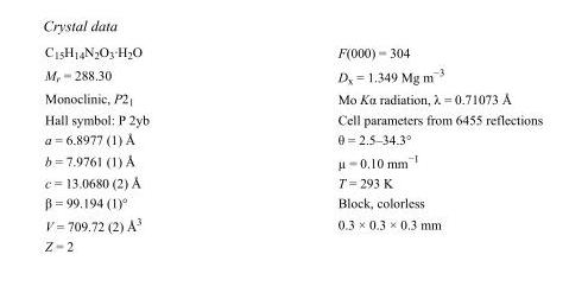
<table><tbody><tr><td>C<sub>15</sub>H<sub>14</sub>N<sub>2</sub>O<sub>3</sub>·H<sub>2</sub>O</td><td>F(000) = 304</td></tr><tr><td>M<sub>r</sub> = 288.30</td><td>D<sub>x</sub> = 1.349 Mg m<sup>−3</sup></td></tr><tr><td>Monoclinic, P2<sub>1</sub></td><td>Mo Kα radiation, λ = 0.71073 Å</td></tr><tr><td>Hall symbol: P 2yb</td><td>Cell parameters from 6455 reflections</td></tr><tr><td>a = 6.8977 (1) Å</td><td>θ = 2.5–34.3°</td></tr><tr><td>b = 7.9761 (1) Å</td><td>µ = 0.10 mm<sup>−1</sup></td></tr><tr><td>c = 13.0680 (2) Å</td><td>T = 293 K</td></tr><tr><td>β = 99.194 (1)°</td><td>Block, colorless</td></tr><tr><td>V = 709.72 (2) Å<sup>3</sup></td><td>0.3 × 0.3 × 0.3 mm</td></tr><tr><td>Z = 2</td><td></td></tr></tbody></table>